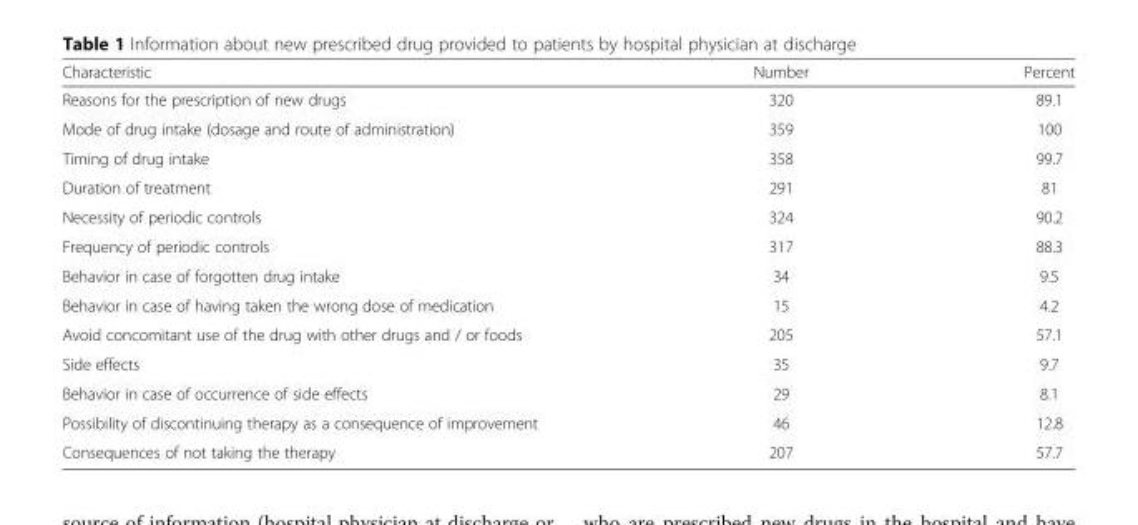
<table><thead><tr><td>Characteristic</td><td>Number</td><td>Percent</td></tr></thead><tbody><tr><td>Reasons for the prescription of new drugs</td><td>320</td><td>89.1</td></tr><tr><td>Mode of drug intake (dosage and route of administration)</td><td>359</td><td>100</td></tr><tr><td>Timing of drug intake</td><td>358</td><td>99.7</td></tr><tr><td>Duration of treatment</td><td>291</td><td>81</td></tr><tr><td>Necessity of periodic controls</td><td>324</td><td>90.2</td></tr><tr><td>Frequency of periodic controls</td><td>317</td><td>88.3</td></tr><tr><td>Behavior in case of forgotten drug intake</td><td>34</td><td>9.5</td></tr><tr><td>Behavior in case of having taken the wrong dose of medication</td><td>15</td><td>4.2</td></tr><tr><td>Avoid concomitant use of the drug with other drugs and / or foods</td><td>205</td><td>57.1</td></tr><tr><td>Side effects</td><td>35</td><td>9.7</td></tr><tr><td>Behavior in case of occurrence of side effects</td><td>29</td><td>8.1</td></tr><tr><td>Possibility of discontinuing therapy as a consequence of improvement</td><td>46</td><td>12.8</td></tr><tr><td>Consequences of not taking the therapy</td><td>207</td><td>57.7</td></tr></tbody></table>